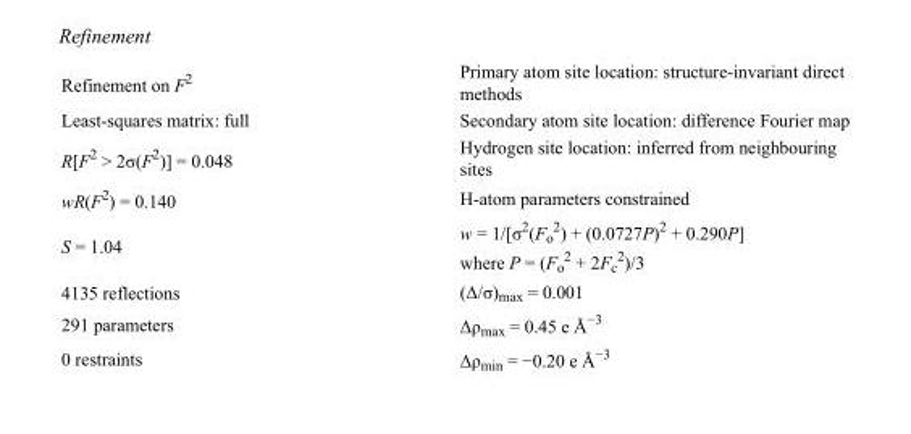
<table><tbody><tr><td>Refinement on F<sup>2</sup></td><td>Primary atom site location: structure-invariant direct methods</td></tr><tr><td>Least-squares matrix: full</td><td>Secondary atom site location: difference Fourier map</td></tr><tr><td>R[F<sup>2</sup> &gt; 2σ(F<sup>2</sup>)] = 0.048</td><td>Hydrogen site location: inferred from neighbouring sites</td></tr><tr><td>wR(F<sup>2</sup>) = 0.140</td><td>H-atom parameters constrained</td></tr><tr><td>S = 1.04</td><td>w = 1/[σ<sup>2</sup>(F<sub>o</sub> <sup>2</sup>) + (0.0727P)<sup>2</sup> + 0.290P] where P = (F<sub>o</sub> <sup>2</sup> + 2F<sub>c</sub> <sup>2</sup>)/3</td></tr><tr><td>4135 reflections</td><td>(Δ/σ)<sub>max</sub> = 0.001</td></tr><tr><td>291 parameters</td><td>Δρ<sub>max</sub> = 0.45 e Å<sup>−3</sup></td></tr><tr><td>0 restraints</td><td>Δρ<sub>min</sub> = −0.20 e Å<sup>−3</sup></td></tr></tbody></table>